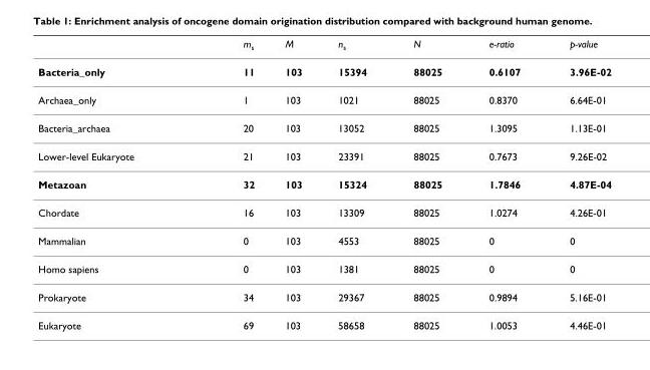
<table><thead><tr><td></td><td>m<sub>s</sub></td><td>M</td><td>n<sub>s</sub></td><td>N</td><td>e-ratio</td><td>p-value</td></tr></thead><tbody><tr><td>Bacteria_only</td><td>11</td><td>103</td><td>15394</td><td>88025</td><td>0.6107</td><td>3.96E-02</td></tr><tr><td>Archaea_only</td><td>1</td><td>103</td><td>1021</td><td>88025</td><td>0.8370</td><td>6.64E-01</td></tr><tr><td>Bacteria_archaea</td><td>20</td><td>103</td><td>13052</td><td>88025</td><td>1.3095</td><td>1.13E-01</td></tr><tr><td>Lower-level Eukaryote</td><td>21</td><td>103</td><td>23391</td><td>88025</td><td>0.7673</td><td>9.26E-02</td></tr><tr><td>Metazoan</td><td>32</td><td>103</td><td>15324</td><td>88025</td><td>1.7846</td><td>4.87E-04</td></tr><tr><td>Chordate</td><td>16</td><td>103</td><td>13309</td><td>88025</td><td>1.0274</td><td>4.26E-01</td></tr><tr><td>Mammalian</td><td>0</td><td>103</td><td>4553</td><td>88025</td><td>0</td><td>0</td></tr><tr><td>Homo sapiens</td><td>0</td><td>103</td><td>1381</td><td>88025</td><td>0</td><td>0</td></tr><tr><td>Prokaryote</td><td>34</td><td>103</td><td>29367</td><td>88025</td><td>0.9894</td><td>5.16E-01</td></tr><tr><td>Eukaryote</td><td>69</td><td>103</td><td>58658</td><td>88025</td><td>1.0053</td><td>4.46E-01</td></tr></tbody></table>